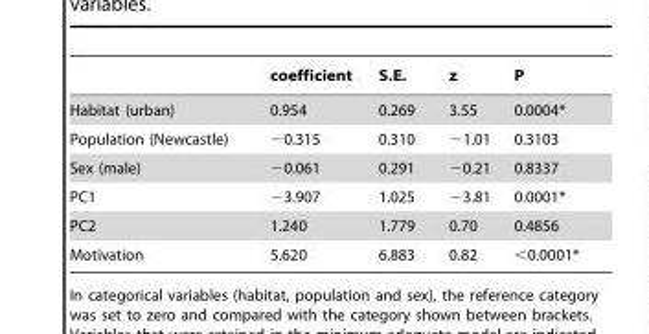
<table><thead><tr><td></td><td>coefficient</td><td>S.E.</td><td>z</td><td>P</td></tr></thead><tbody><tr><td>Habitat (urban)</td><td>0.954</td><td>0.269</td><td>3.55</td><td>0.0004*</td></tr><tr><td>Population (Newcastle)</td><td>−0.315</td><td>0.310</td><td>−1.01</td><td>0.3103</td></tr><tr><td>Sex (male)</td><td>−0.061</td><td>0.291</td><td>−0.21</td><td>0.8337</td></tr><tr><td>PC1</td><td>−3.907</td><td>1.025</td><td>−3.81</td><td>0.0001*</td></tr><tr><td>PC2</td><td>1.240</td><td>1.779</td><td>0.70</td><td>0.4856</td></tr><tr><td>Motivation</td><td>5.620</td><td>6.883</td><td>0.82</td><td>&lt;0.0001*</td></tr></tbody></table>